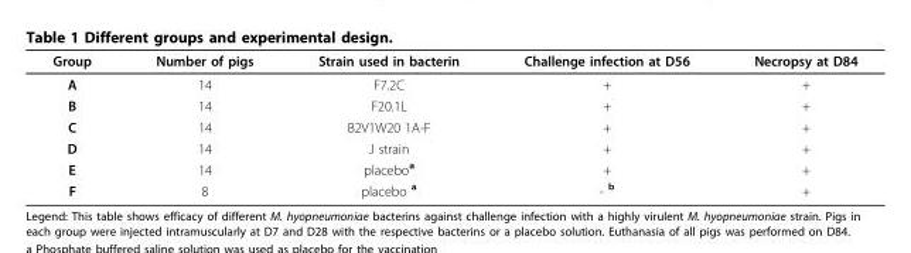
<table><thead><tr><td>Group</td><td>Number of pigs</td><td>Strain used in bacterin</td><td>Challenge infection at D56</td><td>Necropsy at D84</td></tr></thead><tbody><tr><td>A</td><td>14</td><td>F7.2C</td><td>+</td><td>+</td></tr><tr><td>B</td><td>14</td><td>F20.1L</td><td>+</td><td>+</td></tr><tr><td>C</td><td>14</td><td>B2V1W20 1A-F</td><td>+</td><td>+</td></tr><tr><td>D</td><td>14</td><td>J strain</td><td>+</td><td>+</td></tr><tr><td>E</td><td>14</td><td>placebo<sup>a</sup></td><td>+</td><td>+</td></tr><tr><td>F</td><td>8</td><td>placebo <sup>a</sup></td><td>- <sup>b</sup></td><td>+</td></tr></tbody></table>